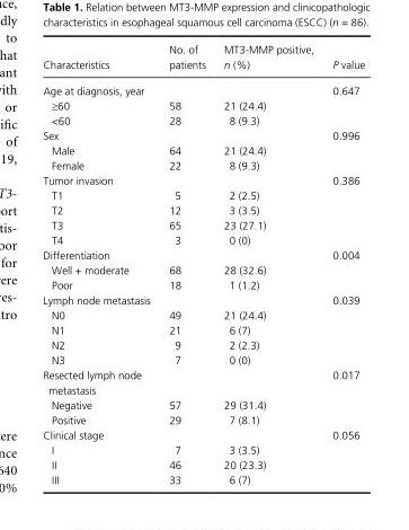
<table><thead><tr><td>Characteristics</td><td>No. of patients</td><td>MT3- MMP positive, n (%)</td><td>P value</td></tr></thead><tbody><tr><td>Age at diagnosis, year</td><td></td><td></td><td>0.647</td></tr><tr><td>≥60</td><td>58</td><td>21 (24.4)</td><td></td></tr><tr><td>&lt;60</td><td>28</td><td>8 (9.3)</td><td></td></tr><tr><td>Sex</td><td></td><td></td><td>0.996</td></tr><tr><td>Male</td><td>64</td><td>21 (24.4)</td><td></td></tr><tr><td>Female</td><td>22</td><td>8 (9.3)</td><td></td></tr><tr><td>Tumor invasion</td><td></td><td></td><td>0.386</td></tr><tr><td>T1</td><td>5</td><td>2 (2.5)</td><td></td></tr><tr><td>T2</td><td>12</td><td>3 (3.5)</td><td></td></tr><tr><td>T3</td><td>65</td><td>23 (27.1)</td><td></td></tr><tr><td>T4</td><td>3</td><td>0 (0)</td><td></td></tr><tr><td>Differentiation</td><td></td><td></td><td>0.004</td></tr><tr><td>Well + moderate</td><td>68</td><td>28 (32.6)</td><td></td></tr><tr><td>Poor</td><td>18</td><td>1 (1.2)</td><td></td></tr><tr><td>Lymph node metastasis</td><td></td><td></td><td>0.039</td></tr><tr><td>N0</td><td>49</td><td>21 (24.4)</td><td></td></tr><tr><td>N1</td><td>21</td><td>6 (7)</td><td></td></tr><tr><td>N2</td><td>9</td><td>2 (2.3)</td><td></td></tr><tr><td>N3</td><td>7</td><td>0 (0)</td><td></td></tr><tr><td>Resected lymph node metastasis</td><td></td><td></td><td>0.017</td></tr><tr><td>Negative</td><td>57</td><td>29 (31.4)</td><td></td></tr><tr><td>Positive</td><td>29</td><td>7 (8.1)</td><td></td></tr><tr><td>Clinical stage</td><td></td><td></td><td>0.056</td></tr><tr><td>I</td><td>7</td><td>3 (3.5)</td><td></td></tr><tr><td>II</td><td>46</td><td>20 (23.3)</td><td></td></tr><tr><td>III</td><td>33</td><td>6 (7)</td><td></td></tr></tbody></table>